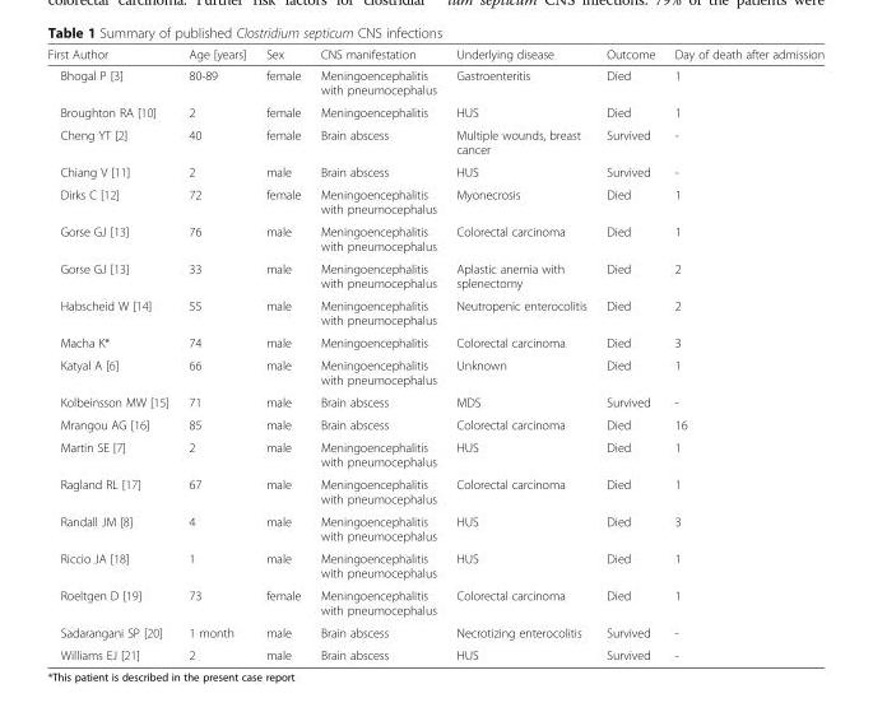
<table><thead><tr><td>First Author</td><td>Age [years]</td><td>Sex</td><td>CNS manifestation</td><td>Underlying disease</td><td>Outcome</td><td>Day of death after admission</td></tr></thead><tbody><tr><td>Bhogal P [3]</td><td>80-89</td><td>female</td><td>Meningoencephalitis with pneumocephalus</td><td>Gastroenteritis</td><td>Died</td><td>1</td></tr><tr><td>Broughton RA [10]</td><td>2</td><td>female</td><td>Meningoencephalitis</td><td>HUS</td><td>Died</td><td>1</td></tr><tr><td>Cheng YT [2]</td><td>40</td><td>female</td><td>Brain abscess</td><td>Multiple wounds, breast cancer</td><td>Survived</td><td>-</td></tr><tr><td>Chiang V [11]</td><td>2</td><td>male</td><td>Brain abscess</td><td>HUS</td><td>Survived</td><td>-</td></tr><tr><td>Dirks C [12]</td><td>72</td><td>female</td><td>Meningoencephalitis with pneumocephalus</td><td>Myonecrosis</td><td>Died</td><td>1</td></tr><tr><td>Gorse GJ [13]</td><td>76</td><td>male</td><td>Meningoencephalitis with pneumocephalus</td><td>Colorectal carcinoma</td><td>Died</td><td>1</td></tr><tr><td>Gorse GJ [13]</td><td>33</td><td>male</td><td>Meningoencephalitis with pneumocephalus</td><td>Aplastic anemia with splenectomy</td><td>Died</td><td>2</td></tr><tr><td>Habscheid W [14]</td><td>55</td><td>male</td><td>Meningoencephalitis with pneumocephalus</td><td>Neutropenic enterocolitis</td><td>Died</td><td>2</td></tr><tr><td>Macha K*</td><td>74</td><td>male</td><td>Meningoencephalitis</td><td>Colorectal carcinoma</td><td>Died</td><td>3</td></tr><tr><td>Katyal A [6]</td><td>66</td><td>male</td><td>Meningoencephalitis with pneumocephalus</td><td>Unknown</td><td>Died</td><td>1</td></tr><tr><td>Kolbeinsson MW [15]</td><td>71</td><td>male</td><td>Brain abscess</td><td>MDS</td><td>Survived</td><td>-</td></tr><tr><td>Mrangou AG [16]</td><td>85</td><td>male</td><td>Brain abscess</td><td>Colorectal carcinoma</td><td>Died</td><td>16</td></tr><tr><td>Martin SE [7]</td><td>2</td><td>male</td><td>Meningoencephalitis with pneumocephalus</td><td>HUS</td><td>Died</td><td>1</td></tr><tr><td>Ragland RL [17]</td><td>67</td><td>male</td><td>Meningoencephalitis with pneumocephalus</td><td>Colorectal carcinoma</td><td>Died</td><td>1</td></tr><tr><td>Randall JM [8]</td><td>4</td><td>male</td><td>Meningoencephalitis with pneumocephalus</td><td>HUS</td><td>Died</td><td>3</td></tr><tr><td>Riccio JA [18]</td><td>1</td><td>male</td><td>Meningoencephalitis with pneumocephalus</td><td>HUS</td><td>Died</td><td>1</td></tr><tr><td>Roeltgen D [19]</td><td>73</td><td>female</td><td>Meningoencephalitis with pneumocephalus</td><td>Colorectal carcinoma</td><td>Died</td><td>1</td></tr><tr><td>Sadarangani SP [20]</td><td>1 month</td><td>male</td><td>Brain abscess</td><td>Necrotizing enterocolitis</td><td>Survived</td><td>-</td></tr><tr><td>Williams EJ [21]</td><td>2</td><td>male</td><td>Brain abscess</td><td>HUS</td><td>Survived</td><td>-</td></tr></tbody></table>